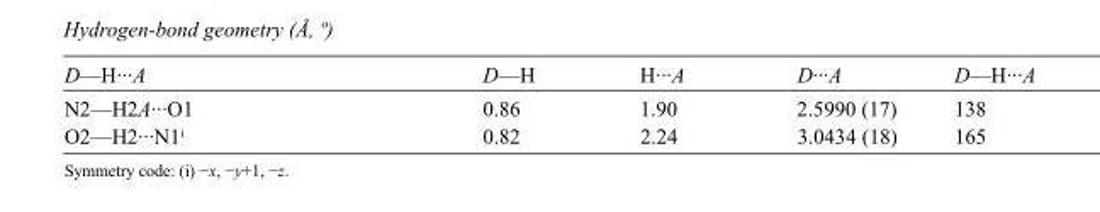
<table><tbody><tr><td>D—H···A</td><td>D—H</td><td>H···A</td><td>D···A</td><td>D—H···A</td></tr><tr><td>N2—H2A···O1</td><td>0.86</td><td>1.90</td><td>2.5990 (17)</td><td>138</td></tr><tr><td>O2—H2···N1<sup>i</sup></td><td>0.82</td><td>2.24</td><td>3.0434 (18)</td><td>165</td></tr></tbody></table>